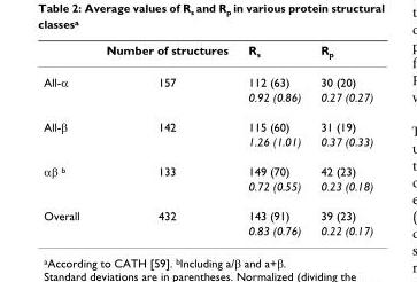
<table><thead><tr><td></td><td>Number of structures</td><td>R<sub>s</sub></td><td>R<sub>p</sub></td></tr></thead><tbody><tr><td rowspan="2">All-α</td><td>157</td><td>112 (63)</td><td>30 (20)</td></tr><tr><td></td><td>0.92 (0.86)</td><td>0.27 (0.27)</td></tr><tr><td rowspan="2">All-β</td><td>142</td><td>115 (60)</td><td>31 (19)</td></tr><tr><td></td><td>1.26 (1.01)</td><td>0.37 (0.33)</td></tr><tr><td rowspan="2">αβ <sup>b</sup></td><td>133</td><td>149 (70)</td><td>42 (23)</td></tr><tr><td></td><td>0.72 (0.55)</td><td>0.23 (0.18)</td></tr><tr><td rowspan="2">Overall</td><td>432</td><td>143 (91)</td><td>39 (23)</td></tr><tr><td></td><td>0.83 (0.76)</td><td>0.22 (0.17)</td></tr></tbody></table>